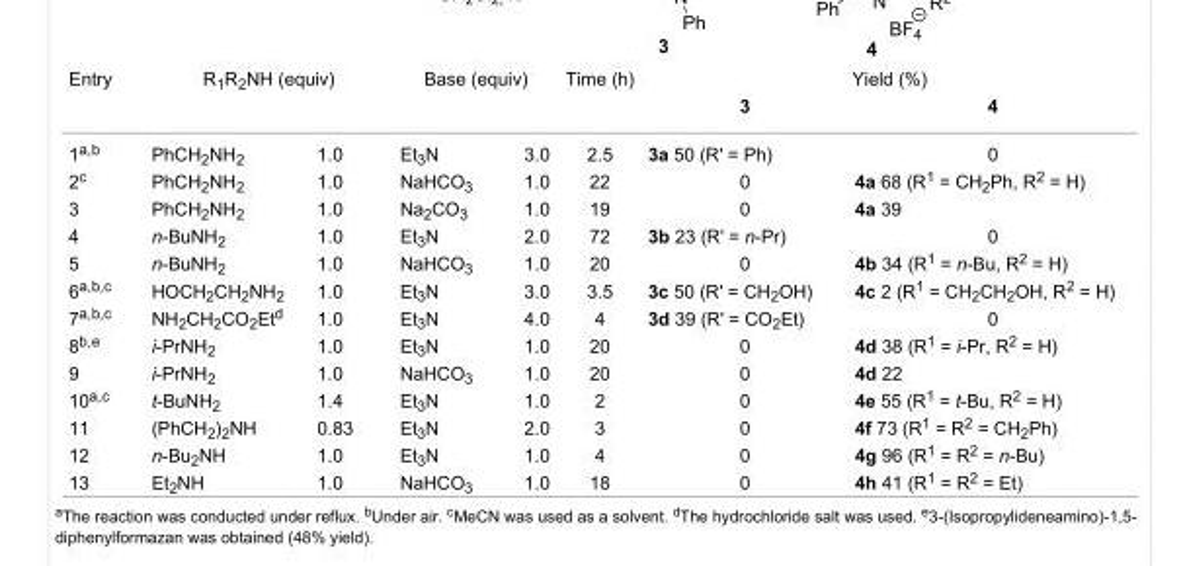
<table><tbody><tr><td rowspan="2">Entry</td><td colspan="2">R<sub>1</sub>R<sub>2</sub>NH (equiv)</td><td colspan="2">Base (equiv)</td><td>Time (h)</td><td colspan="2">Yield (%)</td></tr><tr><td></td><td></td><td></td><td></td><td></td><td>3</td><td>4</td></tr><tr><td>1<sup>a,b</sup></td><td>PhCH<sub>2</sub>NH<sub>2</sub></td><td>1.0</td><td>Et<sub>3</sub>N</td><td>3.0</td><td>2.5</td><td>3a 50 (R&#x27; = Ph)</td><td>0</td></tr><tr><td>2<sup>c</sup></td><td>PhCH<sub>2</sub>NH<sub>2</sub></td><td>1.0</td><td>NaHCO<sub>3</sub></td><td>1.0</td><td>22</td><td>0</td><td>4a 68 (R<sup>1</sup> = CH<sub>2</sub>Ph, R<sup>2</sup> = H)</td></tr><tr><td>3</td><td>PhCH<sub>2</sub>NH<sub>2</sub></td><td>1.0</td><td>Na<sub>2</sub>CO<sub>3</sub></td><td>1.0</td><td>19</td><td>0</td><td>4a 39</td></tr><tr><td>4</td><td>n-BuNH<sub>2</sub></td><td>1.0</td><td>Et<sub>3</sub>N</td><td>2.0</td><td>72</td><td>3b 23 (R&#x27; = n-Pr)</td><td>0</td></tr><tr><td>5</td><td>n-BuNH<sub>2</sub></td><td>1.0</td><td>NaHCO<sub>3</sub></td><td>1.0</td><td>20</td><td>0</td><td>4b 34 (R<sup>1</sup> = n-Bu, R<sup>2</sup> = H)</td></tr><tr><td>6<sup>a,b,c</sup></td><td>HOCH<sub>2</sub>CH<sub>2</sub>NH<sub>2</sub></td><td>1.0</td><td>Et<sub>3</sub>N</td><td>3.0</td><td>3.5</td><td>3c 50 (R&#x27; = CH<sub>2</sub>OH)</td><td>4c 2 (R<sup>1</sup> = CH<sub>2</sub>CH<sub>2</sub>OH, R<sup>2</sup> = H)</td></tr><tr><td>7<sup>a,b,c</sup></td><td>NH<sub>2</sub>CH<sub>2</sub>CO<sub>2</sub>Et<sup>d</sup></td><td>1.0</td><td>Et<sub>3</sub>N</td><td>4.0</td><td>4</td><td>3d 39 (R&#x27; = CO<sub>2</sub>Et)</td><td>0</td></tr><tr><td>8<sup>b,e</sup></td><td>i-PrNH<sub>2</sub></td><td>1.0</td><td>Et<sub>3</sub>N</td><td>1.0</td><td>20</td><td>0</td><td>4d 38 (R<sup>1</sup> = i-Pr, R<sup>2</sup> = H)</td></tr><tr><td>9</td><td>i-PrNH<sub>2</sub></td><td>1.0</td><td>NaHCO<sub>3</sub></td><td>1.0</td><td>20</td><td>0</td><td>4d 22</td></tr><tr><td>10<sup>a,c</sup></td><td>t-BuNH<sub>2</sub></td><td>1.4</td><td>Et<sub>3</sub>N</td><td>1.0</td><td>2</td><td>0</td><td>4e 55 (R<sup>1</sup> = t-Bu, R<sup>2</sup> = H)</td></tr><tr><td>11</td><td>(PhCH<sub>2</sub>)<sub>2</sub>NH</td><td>0.83</td><td>Et<sub>3</sub>N</td><td>2.0</td><td>3</td><td>0</td><td>4f 73 (R<sup>1</sup> = R<sup>2</sup> = CH<sub>2</sub>Ph)</td></tr><tr><td>12</td><td>n-Bu<sub>2</sub>NH</td><td>1.0</td><td>Et<sub>3</sub>N</td><td>1.0</td><td>4</td><td>0</td><td>4g 96 (R<sup>1</sup> = R<sup>2</sup> = n-Bu)</td></tr><tr><td>13</td><td>Et<sub>2</sub>NH</td><td>1.0</td><td>NaHCO<sub>3</sub></td><td>1.0</td><td>18</td><td>0</td><td>4h 41 (R<sup>1</sup> = R<sup>2</sup> = Et)</td></tr></tbody></table>